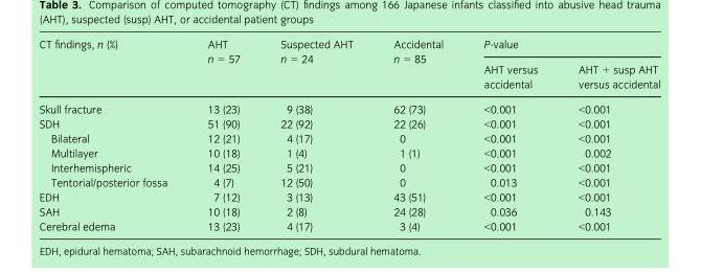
<table><thead><tr><td rowspan="2">CT findings, n (%)</td><td rowspan="2">AHT n = 57</td><td rowspan="2">Suspected AHT n = 24</td><td rowspan="2">Accidental n = 85</td><td colspan="2">P-value</td></tr><tr><td>AHT versus accidental</td><td>AHT + susp AHT versus accidental</td></tr></thead><tbody><tr><td>Skull fracture</td><td>13 (23)</td><td>9 (38)</td><td>62 (73)</td><td>&lt;0.001</td><td>&lt;0.001</td></tr><tr><td>SDH</td><td>51 (90)</td><td>22 (92)</td><td>22 (26)</td><td>&lt;0.001</td><td>&lt;0.001</td></tr><tr><td>Bilateral</td><td>12 (21)</td><td>4 (17)</td><td>0</td><td>&lt;0.001</td><td>&lt;0.001</td></tr><tr><td>Multilayer</td><td>10 (18)</td><td>1 (4)</td><td>1 (1)</td><td>&lt;0.001</td><td>0.002</td></tr><tr><td>Interhemispheric</td><td>14 (25)</td><td>5 (21)</td><td>0</td><td>&lt;0.001</td><td>&lt;0.001</td></tr><tr><td>Tentorial/posterior fossa</td><td>4 (7)</td><td>12 (50)</td><td>0</td><td>0.013</td><td>&lt;0.001</td></tr><tr><td>EDH</td><td>7 (12)</td><td>3 (13)</td><td>43 (51)</td><td>&lt;0.001</td><td>&lt;0.001</td></tr><tr><td>SAH</td><td>10 (18)</td><td>2 (8)</td><td>24 (28)</td><td>0.036</td><td>0.143</td></tr><tr><td>Cerebral edema</td><td>13 (23)</td><td>4 (17)</td><td>3 (4)</td><td>&lt;0.001</td><td>&lt;0.001</td></tr></tbody></table>